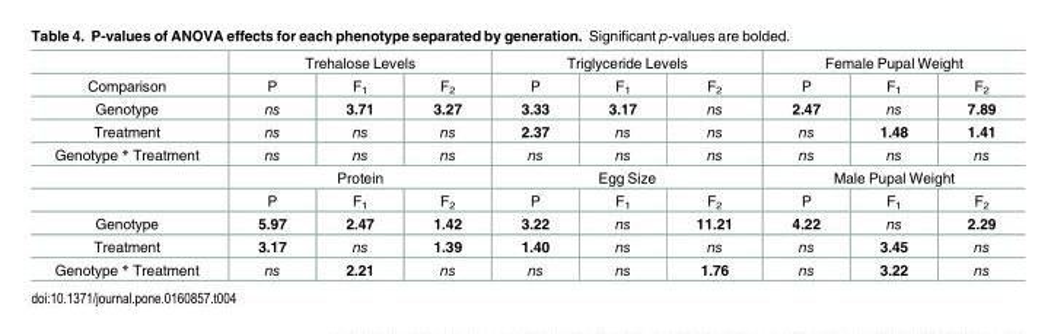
<table><thead><tr><td rowspan="2">Comparison</td><td colspan="3">Trehalose Levels</td><td colspan="3">Triglyceride Levels</td><td colspan="3">Female Pupal Weight</td></tr><tr><td>P</td><td>F<sub>1</sub></td><td>F<sub>2</sub></td><td>P</td><td>F<sub>1</sub></td><td>F<sub>2</sub></td><td>P</td><td>F<sub>1</sub></td><td>F<sub>2</sub></td></tr></thead><tbody><tr><td>Genotype</td><td>ns</td><td>3.71</td><td>3.27</td><td>3.33</td><td>3.17</td><td>ns</td><td>2.47</td><td>ns</td><td>7.89</td></tr><tr><td>Treatment</td><td>ns</td><td>ns</td><td>ns</td><td>2.37</td><td>ns</td><td>ns</td><td>ns</td><td>1.48</td><td>1.41</td></tr><tr><td rowspan="3">Genotype * Treatment</td><td>ns</td><td>ns</td><td>ns</td><td>ns</td><td>ns</td><td>ns</td><td>ns</td><td>ns</td><td>ns</td></tr><tr><td colspan="3">Protein</td><td colspan="3">Egg Size</td><td colspan="3">Male Pupal Weight</td></tr><tr><td>P</td><td>F<sub>1</sub></td><td>F<sub>2</sub></td><td>P</td><td>F<sub>1</sub></td><td>F<sub>2</sub></td><td>P</td><td>F<sub>1</sub></td><td>F<sub>2</sub></td></tr><tr><td>Genotype</td><td>5.97</td><td>2.47</td><td>1.42</td><td>3.22</td><td>ns</td><td>11.21</td><td>4.22</td><td>ns</td><td>2.29</td></tr><tr><td>Treatment</td><td>3.17</td><td>ns</td><td>1.39</td><td>1.40</td><td>ns</td><td>ns</td><td>ns</td><td>3.45</td><td>ns</td></tr><tr><td>Genotype * Treatment</td><td>ns</td><td>2.21</td><td>ns</td><td>ns</td><td>ns</td><td>1.76</td><td>ns</td><td>3.22</td><td>ns</td></tr></tbody></table>